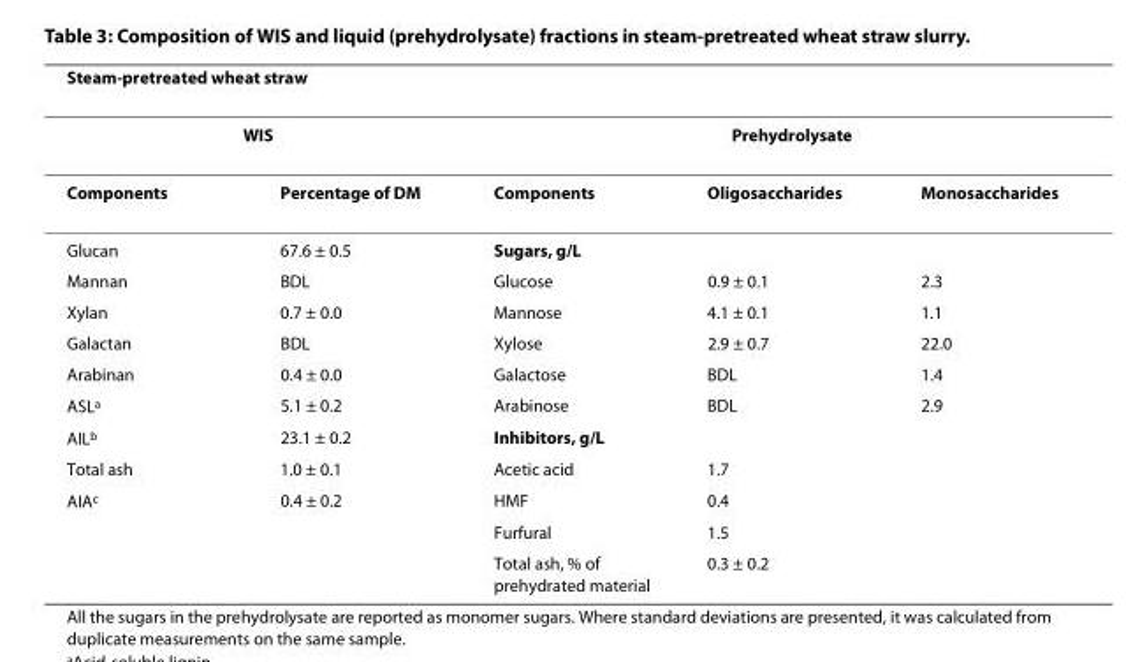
<table><thead><tr><td colspan="5">Steam-pretreated wheat straw</td></tr><tr><td colspan="2">WIS</td><td colspan="3">Prehydrolysate</td></tr><tr><td>Components</td><td>Percentage of DM</td><td>Components</td><td>Oligosaccharides</td><td>Monosaccharides</td></tr></thead><tbody><tr><td>Glucan</td><td>67.6 ± 0.5</td><td>Sugars, g/L</td><td></td><td></td></tr><tr><td>Mannan</td><td>BDL</td><td>Glucose</td><td>0.9 ± 0.1</td><td>2.3</td></tr><tr><td>Xylan</td><td>0.7 ± 0.0</td><td>Mannose</td><td>4.1 ± 0.1</td><td>1.1</td></tr><tr><td>Galactan</td><td>BDL</td><td>Xylose</td><td>2.9 ± 0.7</td><td>22.0</td></tr><tr><td>Arabinan</td><td>0.4 ± 0.0</td><td>Galactose</td><td>BDL</td><td>1.4</td></tr><tr><td>ASL<sup>a</sup></td><td>5.1 ± 0.2</td><td>Arabinose</td><td>BDL</td><td>2.9</td></tr><tr><td>AIL<sup>b</sup></td><td>23.1 ± 0.2</td><td>Inhibitors, g/L</td><td></td><td></td></tr><tr><td>Total ash</td><td>1.0 ± 0.1</td><td>Acetic acid</td><td>1.7</td><td></td></tr><tr><td rowspan="3">AIA<sup>c</sup></td><td>0.4 ± 0.2</td><td>HMF</td><td>0.4</td><td></td></tr><tr><td></td><td>Furfural</td><td>1.5</td><td></td></tr><tr><td></td><td>Total ash, % of prehydrated material</td><td>0.3 ± 0.2</td><td></td></tr></tbody></table>